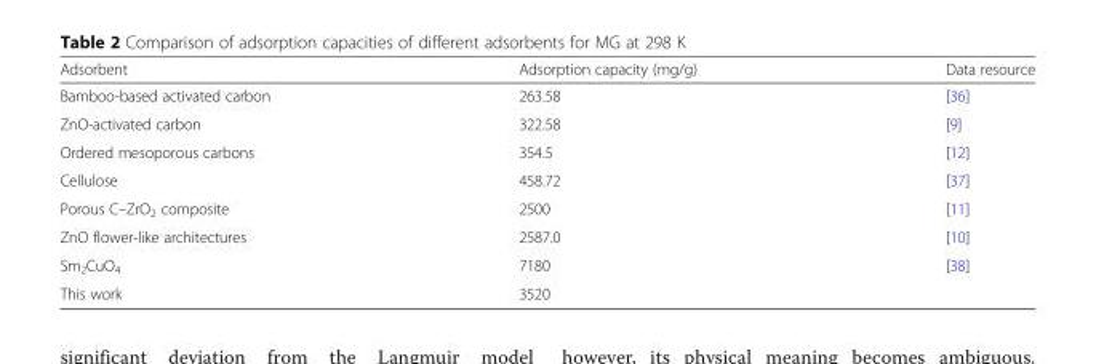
<table><thead><tr><td>Adsorbent</td><td>Adsorption capacity (mg/g)</td><td>Data resource</td></tr></thead><tbody><tr><td>Bamboo-based activated carbon</td><td>263.58</td><td>[36]</td></tr><tr><td>ZnO-activated carbon</td><td>322.58</td><td>[9]</td></tr><tr><td>Ordered mesoporous carbons</td><td>354.5</td><td>[12]</td></tr><tr><td>Cellulose</td><td>458.72</td><td>[37]</td></tr><tr><td>Porous C–ZrO<sub>2</sub> composite</td><td>2500</td><td>[11]</td></tr><tr><td>ZnO flower-like architectures</td><td>2587.0</td><td>[10]</td></tr><tr><td>Sm<sub>2</sub>CuO<sub>4</sub></td><td>7180</td><td>[38]</td></tr><tr><td>This work</td><td>3520</td><td></td></tr></tbody></table>